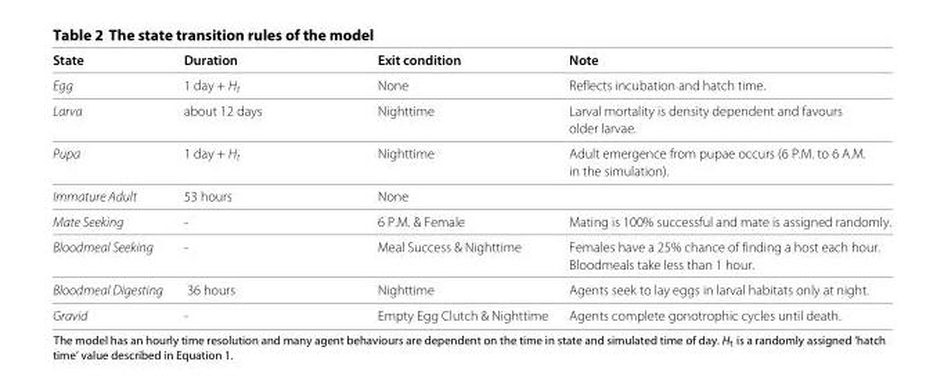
<table><thead><tr><td>State</td><td>Duration</td><td>Exit condition</td><td>Note</td></tr></thead><tbody><tr><td>Egg</td><td>1 day + H<sub>t</sub></td><td>None</td><td>Reflects incubation and hatch time.</td></tr><tr><td rowspan="2">Larva</td><td>about 12 days</td><td>Nighttime</td><td>Larval mortality is density dependent and favours</td></tr><tr><td></td><td></td><td>older larvae.</td></tr><tr><td rowspan="2">Pupa</td><td>1 day + H<sub>t</sub></td><td>Nighttime</td><td>Adult emergence from pupae occurs (6 P.M. to 6 A.M.</td></tr><tr><td></td><td></td><td>in the simulation).</td></tr><tr><td>Immature Adult</td><td>53 hours</td><td>None</td><td></td></tr><tr><td>Mate Seeking</td><td>-</td><td>6 P.M. &amp; Female</td><td>Mating is 100% successful and mate is assigned randomly.</td></tr><tr><td rowspan="2">Bloodmeal Seeking</td><td>-</td><td>Meal Success &amp; Nighttime</td><td>Females have a 25% chance of finding a host each hour.</td></tr><tr><td></td><td></td><td>Bloodmeals take less than 1 hour.</td></tr><tr><td>Bloodmeal Digesting</td><td>36 hours</td><td>Nighttime</td><td>Agents seek to lay eggs in larval habitats only at night.</td></tr><tr><td>Gravid</td><td>-</td><td>Empty Egg Clutch &amp; Nighttime</td><td>Agents complete gonotrophic cycles until death.</td></tr></tbody></table>